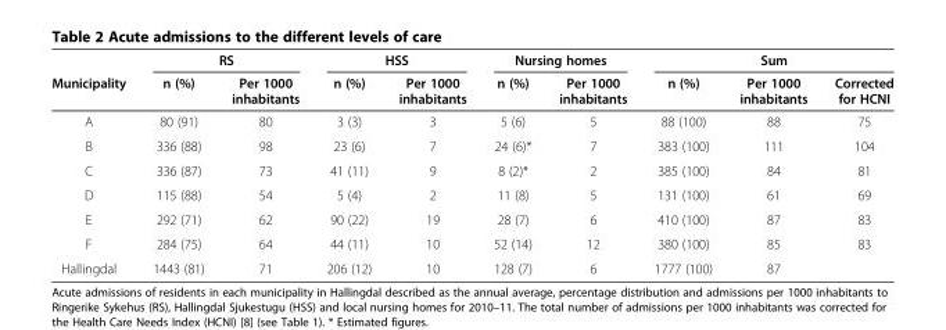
<table><thead><tr><td rowspan="2">Municipality</td><td colspan="2">RS</td><td colspan="2">HSS</td><td colspan="2">Nursing homes</td><td colspan="3">Sum</td></tr><tr><td>n (%)</td><td>Per 1000 inhabitants</td><td>n (%)</td><td>Per 1000 inhabitants</td><td>n (%)</td><td>Per 1000 inhabitants</td><td>n (%)</td><td>Per 1000 inhabitants</td><td>Corrected for HCNI</td></tr></thead><tbody><tr><td>A</td><td>80 (91)</td><td>80</td><td>3 (3)</td><td>3</td><td>5 (6)</td><td>5</td><td>88 (100)</td><td>88</td><td>75</td></tr><tr><td>B</td><td>336 (88)</td><td>98</td><td>23 (6)</td><td>7</td><td>24 (6)*</td><td>7</td><td>383 (100)</td><td>111</td><td>104</td></tr><tr><td>C</td><td>336 (87)</td><td>73</td><td>41 (11)</td><td>9</td><td>8 (2)*</td><td>2</td><td>385 (100)</td><td>84</td><td>81</td></tr><tr><td>D</td><td>115 (88)</td><td>54</td><td>5 (4)</td><td>2</td><td>11 (8)</td><td>5</td><td>131 (100)</td><td>61</td><td>69</td></tr><tr><td>E</td><td>292 (71)</td><td>62</td><td>90 (22)</td><td>19</td><td>28 (7)</td><td>6</td><td>410 (100)</td><td>87</td><td>83</td></tr><tr><td>F</td><td>284 (75)</td><td>64</td><td>44 (11)</td><td>10</td><td>52 (14)</td><td>12</td><td>380 (100)</td><td>85</td><td>83</td></tr><tr><td>Hallingdal</td><td>1443 (81)</td><td>71</td><td>206 (12)</td><td>10</td><td>128 (7)</td><td>6</td><td>1777 (100)</td><td>87</td><td></td></tr></tbody></table>